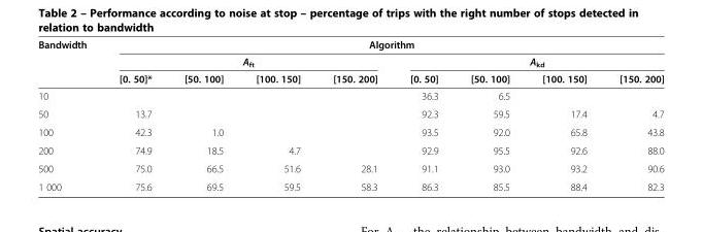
<table><thead><tr><td rowspan="3">Bandwidth</td><td colspan="8">Algorithm</td></tr><tr><td colspan="4">A<sub>ft</sub></td><td colspan="4">A<sub>kd</sub></td></tr><tr><td>[0. 50]*</td><td>[50. 100]</td><td>[100. 150]</td><td>[150. 200]</td><td>[0. 50]</td><td>[50. 100]</td><td>[100. 150]</td><td>[150. 200]</td></tr></thead><tbody><tr><td>10</td><td></td><td></td><td></td><td></td><td>36.3</td><td>6.5</td><td></td><td></td></tr><tr><td>50</td><td>13.7</td><td></td><td></td><td></td><td>92.3</td><td>59.5</td><td>17.4</td><td>4.7</td></tr><tr><td>100</td><td>42.3</td><td>1.0</td><td></td><td></td><td>93.5</td><td>92.0</td><td>65.8</td><td>43.8</td></tr><tr><td>200</td><td>74.9</td><td>18.5</td><td>4.7</td><td></td><td>92.9</td><td>95.5</td><td>92.6</td><td>88.0</td></tr><tr><td>500</td><td>75.0</td><td>66.5</td><td>51.6</td><td>28.1</td><td>91.1</td><td>93.0</td><td>93.2</td><td>90.6</td></tr><tr><td>1 000</td><td>75.6</td><td>69.5</td><td>59.5</td><td>58.3</td><td>86.3</td><td>85.5</td><td>88.4</td><td>82.3</td></tr></tbody></table>